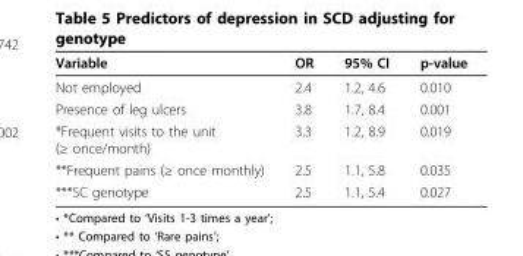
<table><thead><tr><td>Variable</td><td>OR</td><td>95% CI</td><td>p-value</td></tr></thead><tbody><tr><td>Not employed</td><td>2.4</td><td>1.2, 4.6</td><td>0.010</td></tr><tr><td>Presence of leg ulcers</td><td>3.8</td><td>1.7, 8.4</td><td>0.001</td></tr><tr><td>*Frequent visits to the unit (≥ once/month)</td><td>3.3</td><td>1.2, 8.9</td><td>0.019</td></tr><tr><td>**Frequent pains (≥ once monthly)</td><td>2.5</td><td>1.1, 5.8</td><td>0.035</td></tr><tr><td>***SC genotype</td><td>2.5</td><td>1.1, 5.4</td><td>0.027</td></tr></tbody></table>